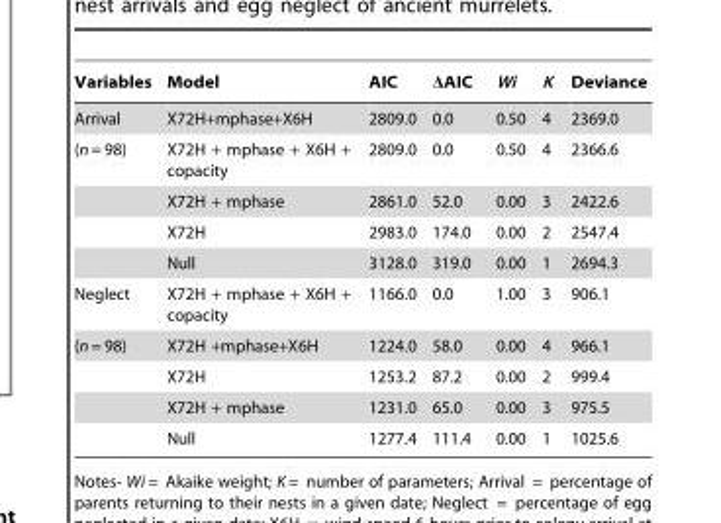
<table><thead><tr><td>Variables</td><td>Model</td><td>AIC</td><td>ΔAIC</td><td>Wi</td><td>K</td><td>Deviance</td></tr></thead><tbody><tr><td>Arrival</td><td>X72H+mphase+X6H</td><td>2809.0</td><td>0.0</td><td>0.50</td><td>4</td><td>2369.0</td></tr><tr><td rowspan="4">(n = 98)</td><td>X72H + mphase + X6H + copacity</td><td>2809.0</td><td>0.0</td><td>0.50</td><td>4</td><td>2366.6</td></tr><tr><td>X72H + mphase</td><td>2861.0</td><td>52.0</td><td>0.00</td><td>3</td><td>2422.6</td></tr><tr><td>X72H</td><td>2983.0</td><td>174.0</td><td>0.00</td><td>2</td><td>2547.4</td></tr><tr><td>Null</td><td>3128.0</td><td>319.0</td><td>0.00</td><td>1</td><td>2694.3</td></tr><tr><td>Neglect</td><td>X72H + mphase + X6H + copacity</td><td>1166.0</td><td>0.0</td><td>1.00</td><td>3</td><td>906.1</td></tr><tr><td rowspan="4">(n = 98)</td><td>X72H +mphase+X6H</td><td>1224.0</td><td>58.0</td><td>0.00</td><td>4</td><td>966.1</td></tr><tr><td>X72H</td><td>1253.2</td><td>87.2</td><td>0.00</td><td>2</td><td>999.4</td></tr><tr><td>X72H + mphase</td><td>1231.0</td><td>65.0</td><td>0.00</td><td>3</td><td>975.5</td></tr><tr><td>Null</td><td>1277.4</td><td>111.4</td><td>0.00</td><td>1</td><td>1025.6</td></tr></tbody></table>